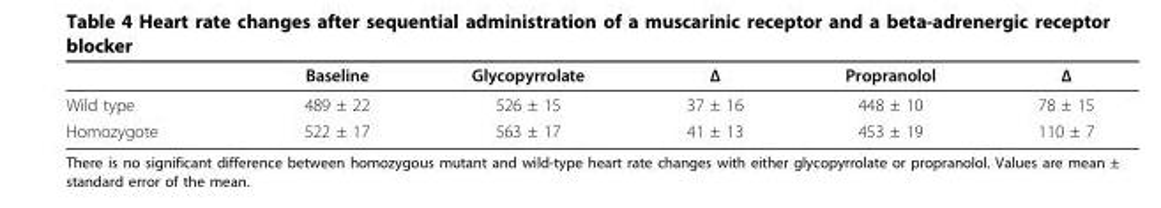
<table><thead><tr><td></td><td>Baseline</td><td>Glycopyrrolate</td><td>Δ</td><td>Propranolol</td><td>Δ</td></tr></thead><tbody><tr><td>Wild type</td><td>489 ± 22</td><td>526 ± 15</td><td>37 ± 16</td><td>448 ± 10</td><td>78 ± 15</td></tr><tr><td>Homozygote</td><td>522 ± 17</td><td>563 ± 17</td><td>41 ± 13</td><td>453 ± 19</td><td>110 ± 7</td></tr></tbody></table>